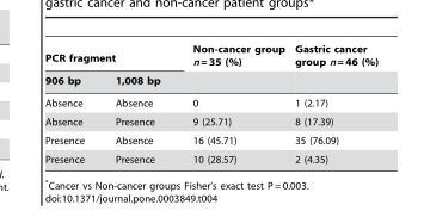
<table><thead><tr><td colspan="2">PCR fragment</td><td rowspan="2">Non-cancer group n = 35 (%)</td><td rowspan="2">Gastric cancer group n = 46 (%)</td></tr><tr><td>906 bp</td><td>1,008 bp</td></tr></thead><tbody><tr><td>Absence</td><td>Absence</td><td>0</td><td>1 (2.17)</td></tr><tr><td>Absence</td><td>Presence</td><td>9 (25.71)</td><td>8 (17.39)</td></tr><tr><td>Presence</td><td>Absence</td><td>16 (45.71)</td><td>35 (76.09)</td></tr><tr><td>Presence</td><td>Presence</td><td>10 (28.57)</td><td>2 (4.35)</td></tr></tbody></table>